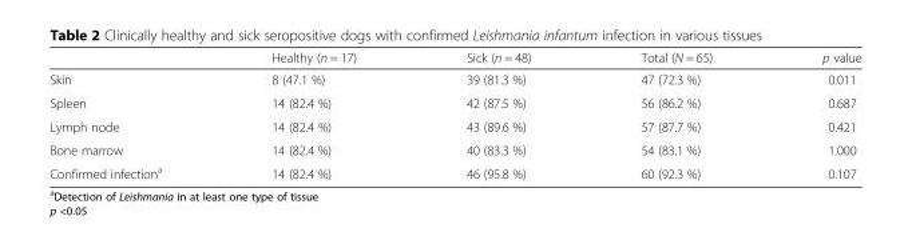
<table><thead><tr><td></td><td>Healthy (n = 17)</td><td>Sick (n = 48)</td><td>Total (N = 65)</td><td>p value</td></tr></thead><tbody><tr><td>Skin</td><td>8 (47.1 %)</td><td>39 (81.3 %)</td><td>47 (72.3 %)</td><td>0.011</td></tr><tr><td>Spleen</td><td>14 (82.4 %)</td><td>42 (87.5 %)</td><td>56 (86.2 %)</td><td>0.687</td></tr><tr><td>Lymph node</td><td>14 (82.4 %)</td><td>43 (89.6 %)</td><td>57 (87.7 %)</td><td>0.421</td></tr><tr><td>Bone marrow</td><td>14 (82.4 %)</td><td>40 (83.3 %)</td><td>54 (83.1 %)</td><td>1.000</td></tr><tr><td>Confirmed infection<sup>a</sup></td><td>14 (82.4 %)</td><td>46 (95.8 %)</td><td>60 (92.3 %)</td><td>0.107</td></tr></tbody></table>